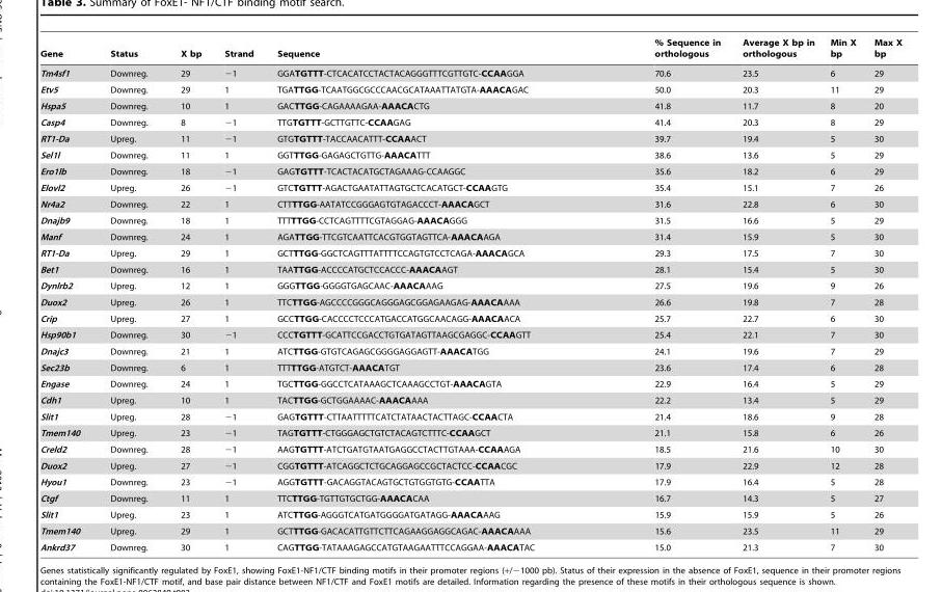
<table><thead><tr><td>Gene</td><td>Status</td><td>X bp</td><td>Strand</td><td>Sequence</td><td>% Sequence in orthologous</td><td>Average X bp in orthologous</td><td>Min X bp</td><td>Max X bp</td></tr></thead><tbody><tr><td>Tm4sf1</td><td>Downreg.</td><td>29</td><td>−1</td><td>GGATGTTT-CTCACATCCTACTACAGGGTTTCGTTGTC-CCAAGGA</td><td>70.6</td><td>23.5</td><td>6</td><td>29</td></tr><tr><td>Etv5</td><td>Downreg.</td><td>29</td><td>1</td><td>TGATTGG-TCAATGGCGCCCAACGCATAAATTATGTA-AAACAGAC</td><td>50.0</td><td>20.3</td><td>11</td><td>29</td></tr><tr><td>Hspa5</td><td>Downreg.</td><td>10</td><td>1</td><td>GACTTGG-CAGAAAAGAA-AAACACTG</td><td>41.8</td><td>11.7</td><td>8</td><td>20</td></tr><tr><td>Casp4</td><td>Downreg.</td><td>8</td><td>−1</td><td>TTGTGTTT-GCTTGTTC-CCAAGAG</td><td>41.4</td><td>20.3</td><td>8</td><td>29</td></tr><tr><td>RT1-Da</td><td>Upreg.</td><td>11</td><td>−1</td><td>GTGTGTTT-TACCAACATTT-CCAAACT</td><td>39.7</td><td>19.4</td><td>5</td><td>30</td></tr><tr><td>Sel1l</td><td>Downreg.</td><td>11</td><td>1</td><td>GGTTTGG-GAGAGCTGTTG-AAACATTT</td><td>38.6</td><td>13.6</td><td>5</td><td>29</td></tr><tr><td>Ero1lb</td><td>Downreg.</td><td>18</td><td>−1</td><td>GAGTGTTT-TCACTACATGCTAGAAAG-CCAAGGC</td><td>35.6</td><td>18.2</td><td>6</td><td>29</td></tr><tr><td>Elovl2</td><td>Upreg.</td><td>26</td><td>−1</td><td>GTCTGTTT-AGACTGAATATTAGTGCTCACATGCT-CCAAGTG</td><td>35.4</td><td>15.1</td><td>7</td><td>26</td></tr><tr><td>Nr4a2</td><td>Downreg.</td><td>22</td><td>1</td><td>CTTTTGG-AATATCCGGGAGTGTAGACCCT-AAACAGCT</td><td>31.6</td><td>22.8</td><td>6</td><td>30</td></tr><tr><td>Dnajb9</td><td>Downreg.</td><td>18</td><td>1</td><td>TTTTTGG-CCTCAGTTTTCGTAGGAG-AAACAGGG</td><td>31.5</td><td>16.6</td><td>5</td><td>29</td></tr><tr><td>Manf</td><td>Downreg.</td><td>24</td><td>1</td><td>AGATTGG-TTCGTCAATTCACGTGGTAGTTCA-AAACAAGA</td><td>31.4</td><td>15.9</td><td>5</td><td>30</td></tr><tr><td>RT1-Da</td><td>Upreg.</td><td>29</td><td>1</td><td>GCTTTGG-GGCTCAGTTTATTTTCCAGTGTCCTCAGA-AAACAGCA</td><td>29.3</td><td>17.5</td><td>7</td><td>30</td></tr><tr><td>Bet1</td><td>Downreg.</td><td>16</td><td>1</td><td>TAATTGG-ACCCCATGCTCCACCC-AAACAAGT</td><td>28.1</td><td>15.4</td><td>5</td><td>30</td></tr><tr><td>Dynlrb2</td><td>Upreg.</td><td>12</td><td>1</td><td>GGGTTGG-GGGGTGAGCAAC-AAACAAAG</td><td>27.5</td><td>19.6</td><td>9</td><td>26</td></tr><tr><td>Duox2</td><td>Upreg.</td><td>26</td><td>1</td><td>TTCTTGG-AGCCCCGGGCAGGGAGCGGAGAAGAG-AAACAAAA</td><td>26.6</td><td>19.8</td><td>7</td><td>28</td></tr><tr><td>Crip</td><td>Upreg.</td><td>27</td><td>1</td><td>GCCTTGG-CACCCCTCCCATGACCATGGCAACAGG-AAACAACA</td><td>25.7</td><td>22.7</td><td>6</td><td>30</td></tr><tr><td>Hsp90b1</td><td>Downreg.</td><td>30</td><td>−1</td><td>CCCTGTTT-GCATTCCGACCTGTGATAGTTAAGCGAGGC-CCAAGTT</td><td>25.4</td><td>22.1</td><td>7</td><td>30</td></tr><tr><td>Dnajc3</td><td>Downreg.</td><td>21</td><td>1</td><td>ATCTTGG-GTGTCAGAGCGGGGAGGAGTT-AAACATGG</td><td>24.1</td><td>19.6</td><td>7</td><td>29</td></tr><tr><td>Sec23b</td><td>Downreg.</td><td>6</td><td>1</td><td>TTTTTGG-ATGTCT-AAACATGT</td><td>23.6</td><td>17.4</td><td>6</td><td>28</td></tr><tr><td>Engase</td><td>Downreg.</td><td>24</td><td>1</td><td>TGCTTGG-GGCCTCATAAAGCTCAAAGCCTGT-AAACAGTA</td><td>22.9</td><td>16.4</td><td>5</td><td>29</td></tr><tr><td>Cdh1</td><td>Upreg.</td><td>10</td><td>1</td><td>TACTTGG-GCTGGAAAAC-AAACAAAA</td><td>22.2</td><td>13.4</td><td>5</td><td>29</td></tr><tr><td>Slit1</td><td>Upreg.</td><td>28</td><td>−1</td><td>GAGTGTTT-CTTAATTTTTCATCTATAACTACTTAGC-CCAACTA</td><td>21.4</td><td>18.6</td><td>9</td><td>28</td></tr><tr><td>Tmem140</td><td>Upreg.</td><td>23</td><td>−1</td><td>TAGTGTTT-CTGGGAGCTGTCTACAGTCTTTC-CCAAGCT</td><td>21.1</td><td>15.8</td><td>6</td><td>26</td></tr><tr><td>Creld2</td><td>Downreg.</td><td>28</td><td>−1</td><td>AAGTGTTT-ATCTGATGTAATGAGGCCTACTTGTAAA-CCAAAGA</td><td>18.5</td><td>21.6</td><td>10</td><td>30</td></tr><tr><td>Duox2</td><td>Upreg.</td><td>27</td><td>−1</td><td>CGGTGTTT-ATCAGGCTCTGCAGGAGCCGCTACTCC-CCAACGC</td><td>17.9</td><td>22.9</td><td>12</td><td>28</td></tr><tr><td>Hyou1</td><td>Downreg.</td><td>23</td><td>−1</td><td>AGGTGTTT-GACAGGTACAGTGCTGTGGTGTG-CCAATTA</td><td>17.9</td><td>16.4</td><td>5</td><td>28</td></tr><tr><td>Ctgf</td><td>Downreg.</td><td>11</td><td>1</td><td>TTCTTGG-TGTTGTGCTGG-AAACACAA</td><td>16.7</td><td>14.3</td><td>5</td><td>27</td></tr><tr><td>Slit1</td><td>Upreg.</td><td>23</td><td>1</td><td>ATCTTGG-AGGGTCATGATGGGGATGATAGG-AAACAAAG</td><td>15.9</td><td>15.9</td><td>5</td><td>26</td></tr><tr><td>Tmem140</td><td>Upreg.</td><td>29</td><td>1</td><td>GCTTTGG-GACACATTGTTCTTCAGAAGGAGGCAGAC-AAACAAAA</td><td>15.6</td><td>23.5</td><td>11</td><td>29</td></tr><tr><td>Ankrd37</td><td>Downreg.</td><td>30</td><td>1</td><td>CAGTTGG-TATAAAGAGCCATGTAAGAATTTCCAGGAA-AAACATAC</td><td>15.0</td><td>21.3</td><td>7</td><td>30</td></tr></tbody></table>